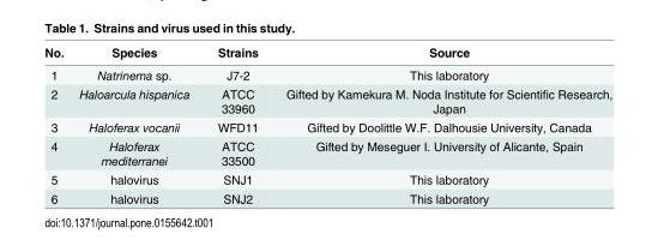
<table><thead><tr><td>No.</td><td>Species</td><td>Strains</td><td>Source</td></tr></thead><tbody><tr><td>1</td><td>Natrinema sp.</td><td>J7-2</td><td>This laboratory</td></tr><tr><td>2</td><td>Haloarcula hispanica</td><td>ATCC 33960</td><td>Gifted by Kamekura M. Noda Institute for Scientific Research, Japan</td></tr><tr><td>3</td><td>Haloferax vocanii</td><td>WFD11</td><td>Gifted by Doolittle W.F. Dalhousie University, Canada</td></tr><tr><td>4</td><td>Haloferax mediterranei</td><td>ATCC 33500</td><td>Gifted by Meseguer I. University of Alicante, Spain</td></tr><tr><td>5</td><td>halovirus</td><td>SNJ1</td><td>This laboratory</td></tr><tr><td>6</td><td>halovirus</td><td>SNJ2</td><td>This laboratory</td></tr></tbody></table>